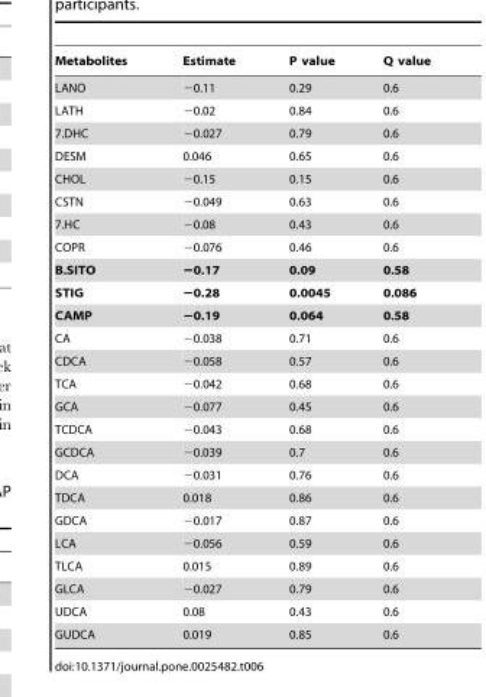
<table><thead><tr><td>Metabolites</td><td>Estimate</td><td>P value</td><td>Q value</td></tr></thead><tbody><tr><td>LANO</td><td>−0.11</td><td>0.29</td><td>0.6</td></tr><tr><td>LATH</td><td>−0.02</td><td>0.84</td><td>0.6</td></tr><tr><td>7.DHC</td><td>−0.027</td><td>0.79</td><td>0.6</td></tr><tr><td>DESM</td><td>0.046</td><td>0.65</td><td>0.6</td></tr><tr><td>CHOL</td><td>−0.15</td><td>0.15</td><td>0.6</td></tr><tr><td>CSTN</td><td>−0.049</td><td>0.63</td><td>0.6</td></tr><tr><td>7.HC</td><td>−0.08</td><td>0.43</td><td>0.6</td></tr><tr><td>COPR</td><td>−0.076</td><td>0.46</td><td>0.6</td></tr><tr><td>B.SITO</td><td>−0.17</td><td>0.09</td><td>0.58</td></tr><tr><td>STIG</td><td>−0.28</td><td>0.0045</td><td>0.086</td></tr><tr><td>CAMP</td><td>−0.19</td><td>0.064</td><td>0.58</td></tr><tr><td>CA</td><td>−0.038</td><td>0.71</td><td>0.6</td></tr><tr><td>CDCA</td><td>−0.058</td><td>0.57</td><td>0.6</td></tr><tr><td>TCA</td><td>−0.042</td><td>0.68</td><td>0.6</td></tr><tr><td>GCA</td><td>−0.077</td><td>0.45</td><td>0.6</td></tr><tr><td>TCDCA</td><td>−0.043</td><td>0.68</td><td>0.6</td></tr><tr><td>GCDCA</td><td>−0.039</td><td>0.7</td><td>0.6</td></tr><tr><td>DCA</td><td>−0.031</td><td>0.76</td><td>0.6</td></tr><tr><td>TDCA</td><td>0.018</td><td>0.86</td><td>0.6</td></tr><tr><td>GDCA</td><td>−0.017</td><td>0.87</td><td>0.6</td></tr><tr><td>LCA</td><td>−0.056</td><td>0.59</td><td>0.6</td></tr><tr><td>TLCA</td><td>0.015</td><td>0.89</td><td>0.6</td></tr><tr><td>GLCA</td><td>−0.027</td><td>0.79</td><td>0.6</td></tr><tr><td>UDCA</td><td>0.08</td><td>0.43</td><td>0.6</td></tr><tr><td>GUDCA</td><td>0.019</td><td>0.85</td><td>0.6</td></tr></tbody></table>